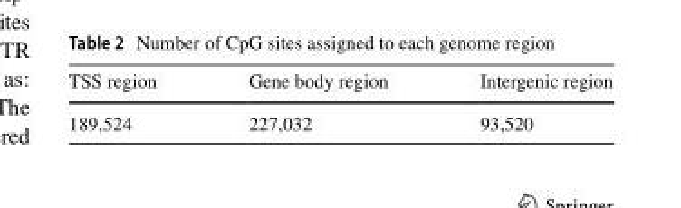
<table><thead><tr><td>TSS region</td><td>Gene body region</td><td>Intergenic region</td></tr></thead><tbody><tr><td>189,524</td><td>227,032</td><td>93,520</td></tr></tbody></table>